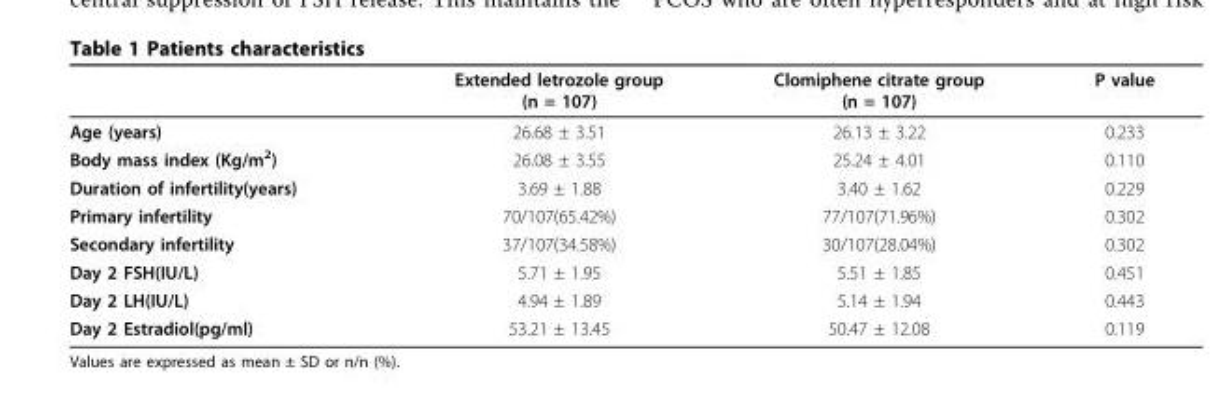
<table><thead><tr><td></td><td>Extended letrozole group (n = 107)</td><td>Clomiphene citrate group (n = 107)</td><td>P value</td></tr></thead><tbody><tr><td>Age (years)</td><td>26.68 ± 3.51</td><td>26.13 ± 3.22</td><td>0.233</td></tr><tr><td>Body mass index (Kg/m<sup>2</sup>)</td><td>26.08 ± 3.55</td><td>25.24 ± 4.01</td><td>0.110</td></tr><tr><td>Duration of infertility(years)</td><td>3.69 ± 1.88</td><td>3.40 ± 1.62</td><td>0.229</td></tr><tr><td>Primary infertility</td><td>70/107(65.42%)</td><td>77/107(71.96%)</td><td>0.302</td></tr><tr><td>Secondary infertility</td><td>37/107(34.58%)</td><td>30/107(28.04%)</td><td>0.302</td></tr><tr><td>Day 2 FSH(IU/L)</td><td>5.71 ± 1.95</td><td>5.51 ± 1.85</td><td>0.451</td></tr><tr><td>Day 2 LH(IU/L)</td><td>4.94 ± 1.89</td><td>5.14 ± 1.94</td><td>0.443</td></tr><tr><td>Day 2 Estradiol(pg/ml)</td><td>53.21 ± 13.45</td><td>50.47 ± 12.08</td><td>0.119</td></tr></tbody></table>